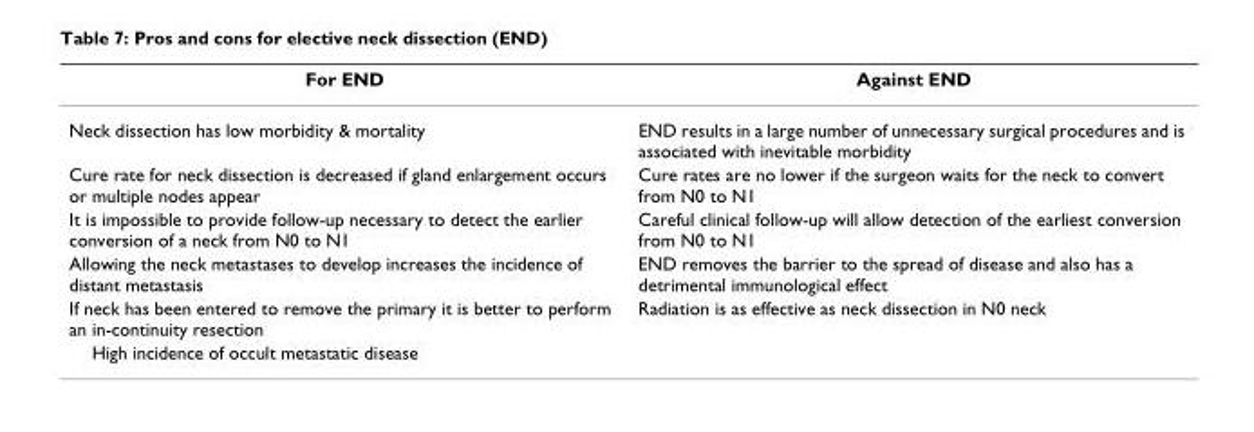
<table><thead><tr><td>For END</td><td>Against END</td></tr></thead><tbody><tr><td>Neck dissection has low morbidity &amp; mortality</td><td>END results in a large number of unnecessary surgical procedures and is associated with inevitable morbidity</td></tr><tr><td>Cure rate for neck dissection is decreased if gland enlargement occurs or multiple nodes appear</td><td>Cure rates are no lower if the surgeon waits for the neck to convert from N0 to N1</td></tr><tr><td>It is impossible to provide follow-up necessary to detect the earlier conversion of a neck from N0 to N1</td><td>Careful clinical follow-up will allow detection of the earliest conversion from N0 to N1</td></tr><tr><td>Allowing the neck metastases to develop increases the incidence of distant metastasis</td><td>END removes the barrier to the spread of disease and also has a detrimental immunological effect</td></tr><tr><td>If neck has been entered to remove the primary it is better to perform an in-continuity resection</td><td>Radiation is as effective as neck dissection in N0 neck</td></tr><tr><td>High incidence of occult metastatic disease</td><td></td></tr></tbody></table>